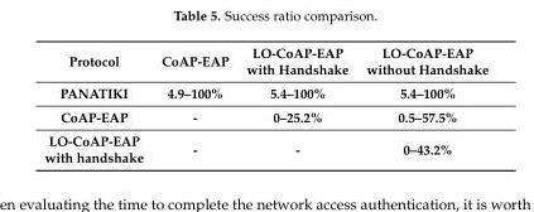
<table><thead><tr><td>Protocol</td><td>CoAP-EAP</td><td>LO-CoAP-EAP with Handshake</td><td>LO-CoAP-EAP without Handshake</td></tr></thead><tbody><tr><td>PANATIKI</td><td>4.9–100%</td><td>5.4–100%</td><td>5.4–100%</td></tr><tr><td>CoAP-EAP</td><td>-</td><td>0–25.2%</td><td>0.5–57.5%</td></tr><tr><td>LO-CoAP-EAP with handshake</td><td>-</td><td>-</td><td>0–43.2%</td></tr></tbody></table>